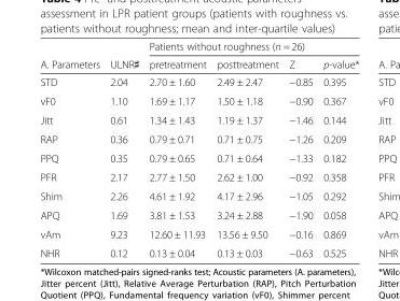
<table><thead><tr><td rowspan="2">A. Parameters</td><td rowspan="2">ULNR♯</td><td colspan="4">Patients without roughness (n = 26)</td></tr><tr><td>pretreatment</td><td>posttreatment</td><td>Z</td><td>p-value*</td></tr></thead><tbody><tr><td>STD</td><td>2.04</td><td>2.70 ± 1.60</td><td>2.49 ± 2.47</td><td>−0.85</td><td>0.395</td></tr><tr><td>vF0</td><td>1.10</td><td>1.69 ± 1.17</td><td>1.50 ± 1.18</td><td>−0.90</td><td>0.367</td></tr><tr><td>Jitt</td><td>0.61</td><td>1.34 ± 1.43</td><td>1.19 ± 1.37</td><td>−1.46</td><td>0.144</td></tr><tr><td>RAP</td><td>0.36</td><td>0.79 ± 0.71</td><td>0.71 ± 0.75</td><td>−1.26</td><td>0.209</td></tr><tr><td>PPQ</td><td>0.35</td><td>0.79 ± 0.65</td><td>0.71 ± 0.64</td><td>−1.33</td><td>0.182</td></tr><tr><td>PFR</td><td>2.17</td><td>2.77 ± 1.50</td><td>2.62 ± 1.00</td><td>−0.92</td><td>0.358</td></tr><tr><td>Shim</td><td>2.26</td><td>4.61 ± 1.92</td><td>4.17 ± 2.96</td><td>−1.05</td><td>0.292</td></tr><tr><td>APQ</td><td>1.69</td><td>3.81 ± 1.53</td><td>3.24 ± 2.88</td><td>−1.90</td><td>0.058</td></tr><tr><td>vAm</td><td>9.23</td><td>12.60 ± 11.93</td><td>13.56 ± 9.50</td><td>−0.16</td><td>0.869</td></tr><tr><td>NHR</td><td>0.12</td><td>0.13 ± 0.04</td><td>0.13 ± 0.03</td><td>−0.63</td><td>0.525</td></tr></tbody></table>